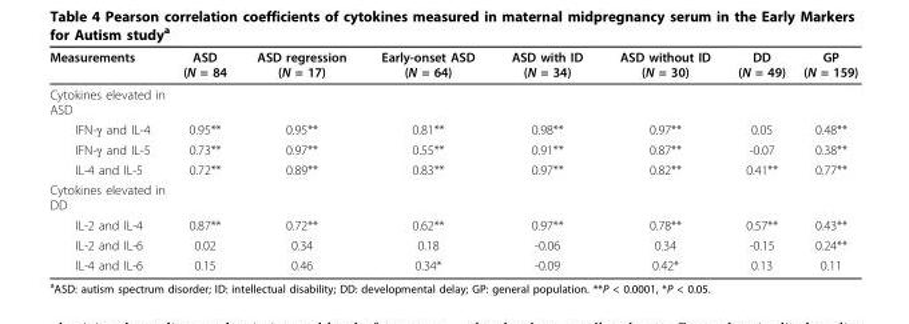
<table><thead><tr><td>Measurements</td><td>ASD (N = 84</td><td>ASD regression (N = 17)</td><td>Early-onset ASD (N = 64)</td><td>ASD with ID (N = 34)</td><td>ASD without ID (N = 30)</td><td>DD (N = 49)</td><td>GP (N = 159)</td></tr></thead><tbody><tr><td colspan="8">Cytokines elevated in ASD</td></tr><tr><td>IFN-γ and IL-4</td><td>0.95**</td><td>0.95**</td><td>0.81**</td><td>0.98**</td><td>0.97**</td><td>0.05</td><td>0.48**</td></tr><tr><td>IFN-γ and IL-5</td><td>0.73**</td><td>0.97**</td><td>0.55**</td><td>0.91**</td><td>0.87**</td><td>-0.07</td><td>0.38**</td></tr><tr><td>IL-4 and IL-5</td><td>0.72**</td><td>0.89**</td><td>0.83**</td><td>0.97**</td><td>0.82**</td><td>0.41**</td><td>0.77**</td></tr><tr><td colspan="8">Cytokines elevated in DD</td></tr><tr><td>IL-2 and IL-4</td><td>0.87**</td><td>0.72**</td><td>0.62**</td><td>0.97**</td><td>0.78**</td><td>0.57**</td><td>0.43**</td></tr><tr><td>IL-2 and IL-6</td><td>0.02</td><td>0.34</td><td>0.18</td><td>-0.06</td><td>0.34</td><td>-0.15</td><td>0.24**</td></tr><tr><td>IL-4 and IL-6</td><td>0.15</td><td>0.46</td><td>0.34*</td><td>-0.09</td><td>0.42*</td><td>0.13</td><td>0.11</td></tr></tbody></table>